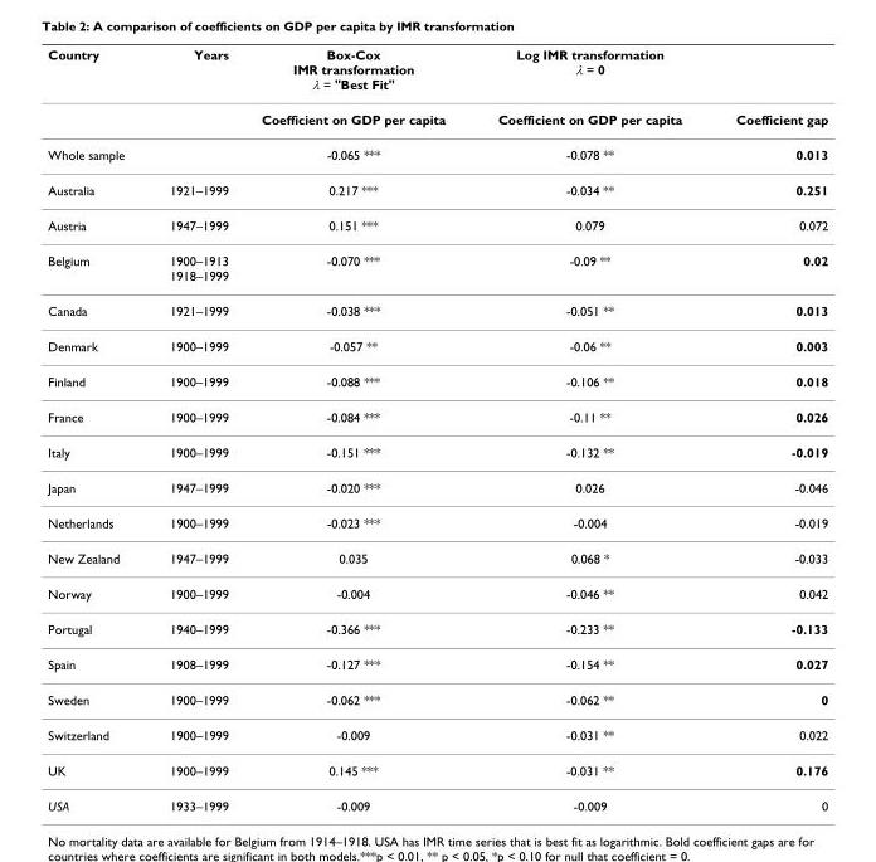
<table><thead><tr><td>Country</td><td>Years</td><td>Box-Cox IMR transformation λ = &quot;Best Fit&quot;</td><td>Log IMR transformation λ = 0</td><td></td></tr></thead><tbody><tr><td></td><td></td><td>Coefficient on GDP per capita</td><td>Coefficient on GDP per capita</td><td>Coefficient gap</td></tr><tr><td>Whole sample</td><td></td><td>-0.065 ***</td><td>-0.078 **</td><td>0.013</td></tr><tr><td>Australia</td><td>1921–1999</td><td>0.217 ***</td><td>-0.034 **</td><td>0.251</td></tr><tr><td>Austria</td><td>1947–1999</td><td>0.151 ***</td><td>0.079</td><td>0.072</td></tr><tr><td>Belgium</td><td>1900–1913 1918–1999</td><td>-0.070 ***</td><td>-0.09 **</td><td>0.02</td></tr><tr><td>Canada</td><td>1921–1999</td><td>-0.038 ***</td><td>-0.051 **</td><td>0.013</td></tr><tr><td>Denmark</td><td>1900–1999</td><td>-0.057 **</td><td>-0.06 **</td><td>0.003</td></tr><tr><td>Finland</td><td>1900–1999</td><td>-0.088 ***</td><td>-0.106 **</td><td>0.018</td></tr><tr><td>France</td><td>1900–1999</td><td>-0.084 ***</td><td>-0.11 **</td><td>0.026</td></tr><tr><td>Italy</td><td>1900–1999</td><td>-0.151 ***</td><td>-0.132 **</td><td>-0.019</td></tr><tr><td>Japan</td><td>1947–1999</td><td>-0.020 ***</td><td>0.026</td><td>-0.046</td></tr><tr><td>Netherlands</td><td>1900–1999</td><td>-0.023 ***</td><td>-0.004</td><td>-0.019</td></tr><tr><td>New Zealand</td><td>1947–1999</td><td>0.035</td><td>0.068 *</td><td>-0.033</td></tr><tr><td>Norway</td><td>1900–1999</td><td>-0.004</td><td>-0.046 **</td><td>0.042</td></tr><tr><td>Portugal</td><td>1940–1999</td><td>-0.366 ***</td><td>-0.233 **</td><td>-0.133</td></tr><tr><td>Spain</td><td>1908–1999</td><td>-0.127 ***</td><td>-0.154 **</td><td>0.027</td></tr><tr><td>Sweden</td><td>1900–1999</td><td>-0.062 ***</td><td>-0.062 **</td><td>0</td></tr><tr><td>Switzerland</td><td>1900–1999</td><td>-0.009</td><td>-0.031 **</td><td>0.022</td></tr><tr><td>UK</td><td>1900–1999</td><td>0.145 ***</td><td>-0.031 **</td><td>0.176</td></tr><tr><td>USA</td><td>1933–1999</td><td>-0.009</td><td>-0.009</td><td>0</td></tr></tbody></table>